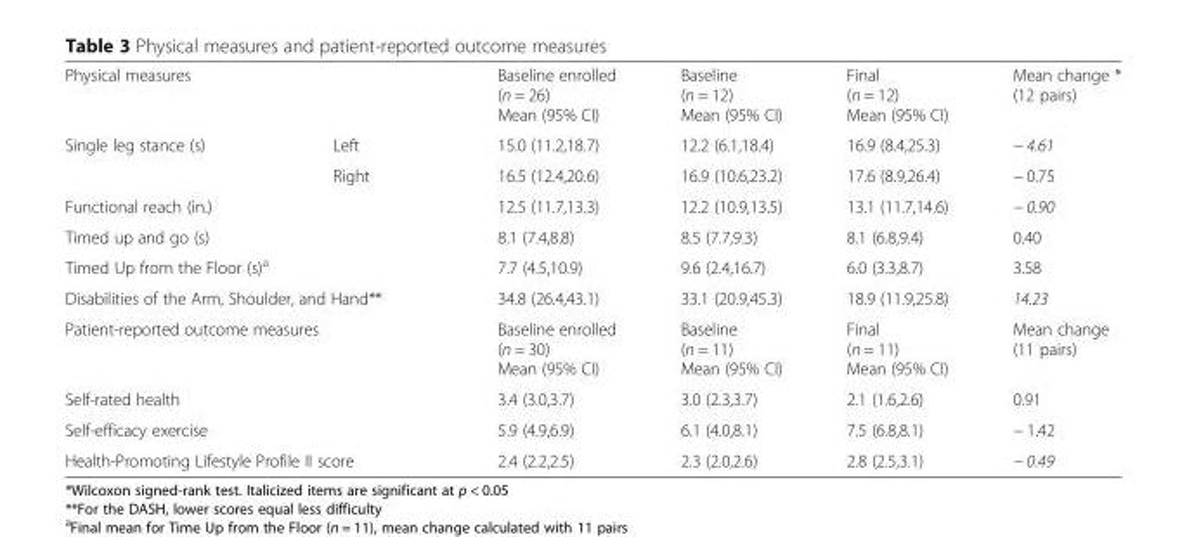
<table><tbody><tr><td colspan="2">Physical measures</td><td>Baseline enrolled (n = 26) Mean (95% CI)</td><td>Baseline (n = 12) Mean (95% CI)</td><td>Final (n = 12) Mean (95% CI)</td><td>Mean change * (12 pairs)</td></tr><tr><td rowspan="2">Single leg stance (s)</td><td>Left</td><td>15.0 (11.2,18.7)</td><td>12.2 (6.1,18.4)</td><td>16.9 (8.4,25.3)</td><td>− 4.61</td></tr><tr><td>Right</td><td>16.5 (12.4,20.6)</td><td>16.9 (10.6,23.2)</td><td>17.6 (8.9,26.4)</td><td>− 0.75</td></tr><tr><td colspan="2">Functional reach (in.)</td><td>12.5 (11.7,13.3)</td><td>12.2 (10.9,13.5)</td><td>13.1 (11.7,14.6)</td><td>− 0.90</td></tr><tr><td colspan="2">Timed up and go (s)</td><td>8.1 (7.4,8.8)</td><td>8.5 (7.7,9.3)</td><td>8.1 (6.8,9.4)</td><td>0.40</td></tr><tr><td colspan="2">Timed Up from the Floor (s)<sup>a</sup></td><td>7.7 (4.5,10.9)</td><td>9.6 (2.4,16.7)</td><td>6.0 (3.3,8.7)</td><td>3.58</td></tr><tr><td colspan="2">Disabilities of the Arm, Shoulder, and Hand**</td><td>34.8 (26.4,43.1)</td><td>33.1 (20.9,45.3)</td><td>18.9 (11.9,25.8)</td><td>14.23</td></tr><tr><td colspan="2">Patient-reported outcome measures</td><td>Baseline enrolled (n = 30) Mean (95% CI)</td><td>Baseline (n = 11) Mean (95% CI)</td><td>Final (n = 11) Mean (95% CI)</td><td>Mean change (11 pairs)</td></tr><tr><td colspan="2">Self-rated health</td><td>3.4 (3.0,3.7)</td><td>3.0 (2.3,3.7)</td><td>2.1 (1.6,2.6)</td><td>0.91</td></tr><tr><td colspan="2">Self-efficacy exercise</td><td>5.9 (4.9,6.9)</td><td>6.1 (4.0,8.1)</td><td>7.5 (6.8,8.1)</td><td>− 1.42</td></tr><tr><td colspan="2">Health-Promoting Lifestyle Profile II score</td><td>2.4 (2.2,2.5)</td><td>2.3 (2.0,2.6)</td><td>2.8 (2.5,3.1)</td><td>− 0.49</td></tr></tbody></table>